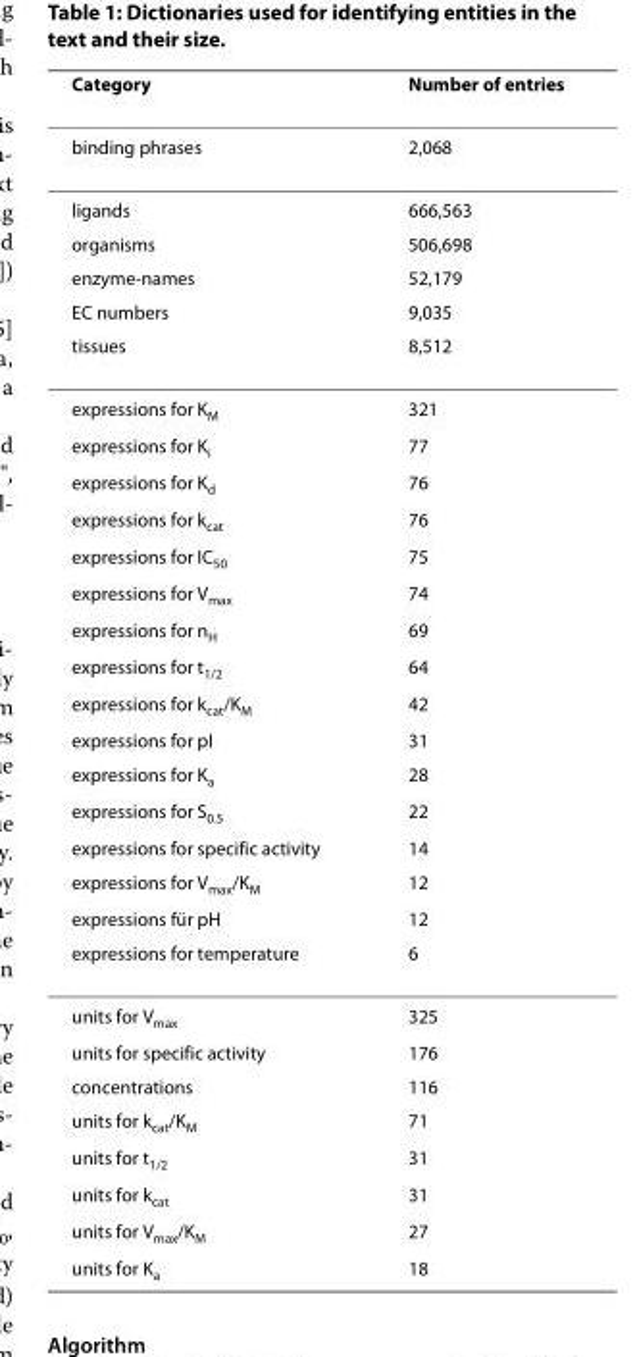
<table><thead><tr><td>Category</td><td>Number of entries</td></tr></thead><tbody><tr><td>binding phrases</td><td>2,068</td></tr><tr><td>ligands</td><td>666,563</td></tr><tr><td>organisms</td><td>506,698</td></tr><tr><td>enzyme-names</td><td>52,179</td></tr><tr><td>EC numbers</td><td>9,035</td></tr><tr><td>tissues</td><td>8,512</td></tr><tr><td>expressions for K<sub>M</sub></td><td>321</td></tr><tr><td>expressions for K<sub>i</sub></td><td>77</td></tr><tr><td>expressions for K<sub>d</sub></td><td>76</td></tr><tr><td>expressions for k<sub>cat</sub></td><td>76</td></tr><tr><td>expressions for IC<sub>50</sub></td><td>75</td></tr><tr><td>expressions for V<sub>max</sub></td><td>74</td></tr><tr><td>expressions for n<sub>H</sub></td><td>69</td></tr><tr><td>expressions for t<sub>1/2</sub></td><td>64</td></tr><tr><td>expressions for k<sub>cat</sub>/K<sub>M</sub></td><td>42</td></tr><tr><td>expressions for pI</td><td>31</td></tr><tr><td>expressions for K<sub>a</sub></td><td>28</td></tr><tr><td>expressions for S<sub>0.5</sub></td><td>22</td></tr><tr><td>expressions for specific activity</td><td>14</td></tr><tr><td>expressions for V<sub>max</sub>/K<sub>M</sub></td><td>12</td></tr><tr><td>expressions für pH</td><td>12</td></tr><tr><td>expressions for temperature</td><td>6</td></tr><tr><td>units for V<sub>max</sub></td><td>325</td></tr><tr><td>units for specific activity</td><td>176</td></tr><tr><td>concentrations</td><td>116</td></tr><tr><td>units for k<sub>cat</sub>/K<sub>M</sub></td><td>71</td></tr><tr><td>units for t<sub>1/2</sub></td><td>31</td></tr><tr><td>units for k<sub>cat</sub></td><td>31</td></tr><tr><td>units for V<sub>max</sub>/K<sub>M</sub></td><td>27</td></tr><tr><td>units for K<sub>a</sub></td><td>18</td></tr></tbody></table>